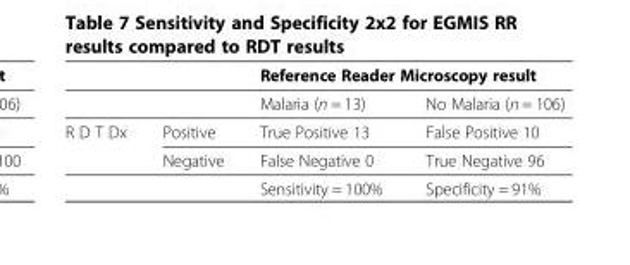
<table><thead><tr><td rowspan="2"></td><td rowspan="2"></td><td colspan="2">Reference Reader Microscopy result</td></tr><tr><td>Malaria (n = 13)</td><td>No Malaria (n = 106)</td></tr></thead><tbody><tr><td rowspan="3">R D T Dx</td><td>Positive</td><td>True Positive 13</td><td>False Positive 10</td></tr><tr><td>Negative</td><td>False Negative 0</td><td>True Negative 96</td></tr><tr><td></td><td>Sensitivity = 100%</td><td>Specificity = 91%</td></tr></tbody></table>